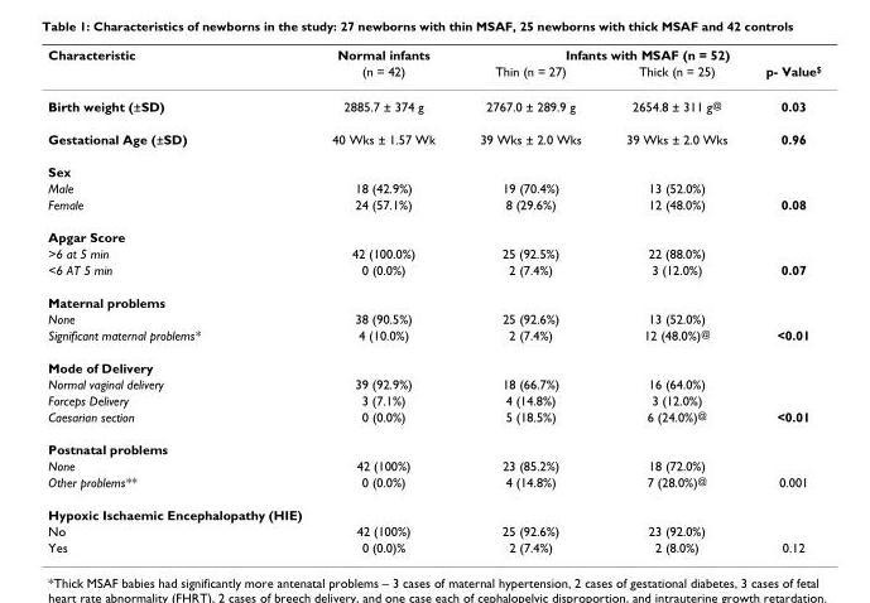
<table><thead><tr><td rowspan="2">Characteristic</td><td rowspan="2">Normal infants (n = 42)</td><td colspan="3">Infants with MSAF (n = 52)</td></tr><tr><td>Thin (n = 27)</td><td>Thick (n = 25)</td><td>p- Value<sup>$</sup></td></tr></thead><tbody><tr><td>Birth weight (±SD)</td><td>2885.7 ± 374 g</td><td>2767.0 ± 289.9 g</td><td>2654.8 ± 311 g<sup>@</sup></td><td>0.03</td></tr><tr><td>Gestational Age (±SD)</td><td>40 Wks ± 1.57 Wk</td><td>39 Wks ± 2.0 Wks</td><td>39 Wks ± 2.0 Wks</td><td>0.96</td></tr><tr><td colspan="5">Sex</td></tr><tr><td>Male</td><td>18 (42.9%)</td><td>19 (70.4%)</td><td>13 (52.0%)</td><td></td></tr><tr><td>Female</td><td>24 (57.1%)</td><td>8 (29.6%)</td><td>12 (48.0%)</td><td>0.08</td></tr><tr><td colspan="5">Apgar Score</td></tr><tr><td>&gt;6 at 5 min</td><td>42 (100.0%)</td><td>25 (92.5%)</td><td>22 (88.0%)</td><td></td></tr><tr><td>&lt;6 AT 5 min</td><td>0 (0.0%)</td><td>2 (7.4%)</td><td>3 (12.0%)</td><td>0.07</td></tr><tr><td colspan="5">Maternal problems</td></tr><tr><td>None</td><td>38 (90.5%)</td><td>25 (92.6%)</td><td>13 (52.0%)</td><td></td></tr><tr><td>Significant maternal problems*</td><td>4 (10.0%)</td><td>2 (7.4%)</td><td>12 (48.0%)<sup>@</sup></td><td>&lt;0.01</td></tr><tr><td colspan="5">Mode of Delivery</td></tr><tr><td>Normal vaginal delivery</td><td>39 (92.9%)</td><td>18 (66.7%)</td><td>16 (64.0%)</td><td></td></tr><tr><td>Forceps Delivery</td><td>3 (7.1%)</td><td>4 (14.8%)</td><td>3 (12.0%)</td><td></td></tr><tr><td>Caesarian section</td><td>0 (0.0%)</td><td>5 (18.5%)</td><td>6 (24.0%)<sup>@</sup></td><td>&lt;0.01</td></tr><tr><td colspan="5">Postnatal problems</td></tr><tr><td>None</td><td>42 (100%)</td><td>23 (85.2%)</td><td>18 (72.0%)</td><td></td></tr><tr><td>Other problems**</td><td>0 (0.0%)</td><td>4 (14.8%)</td><td>7 (28.0%)<sup>@</sup></td><td>0.001</td></tr><tr><td colspan="5">Hypoxic Ischaemic Encephalopathy (HIE)</td></tr><tr><td>No</td><td>42 (100%)</td><td>25 (92.6%)</td><td>23 (92.0%)</td><td></td></tr><tr><td>Yes</td><td>0 (0.0)%</td><td>2 (7.4%)</td><td>2 (8.0%)</td><td>0.12</td></tr></tbody></table>